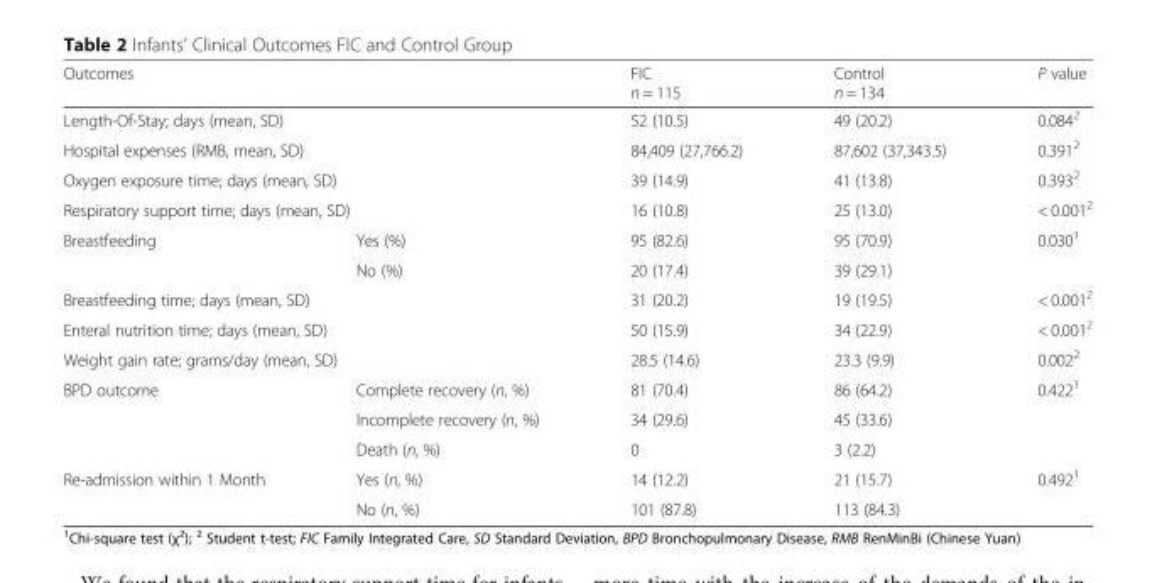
<table><thead><tr><td colspan="2">Outcomes</td><td>FIC n = 115</td><td>Control n = 134</td><td>P value</td></tr></thead><tbody><tr><td colspan="2">Length-Of-Stay; days (mean, SD)</td><td>52 (10.5)</td><td>49 (20.2)</td><td>0.084<sup>2</sup></td></tr><tr><td colspan="2">Hospital expenses (RMB, mean, SD)</td><td>84,409 (27,766.2)</td><td>87,602 (37,343.5)</td><td>0.391<sup>2</sup></td></tr><tr><td colspan="2">Oxygen exposure time; days (mean, SD)</td><td>39 (14.9)</td><td>41 (13.8)</td><td>0.393<sup>2</sup></td></tr><tr><td colspan="2">Respiratory support time; days (mean, SD)</td><td>16 (10.8)</td><td>25 (13.0)</td><td>&lt; 0.001<sup>2</sup></td></tr><tr><td rowspan="2">Breastfeeding</td><td>Yes (%)</td><td>95 (82.6)</td><td>95 (70.9)</td><td rowspan="2">0.030<sup>1</sup></td></tr><tr><td>No (%)</td><td>20 (17.4)</td><td>39 (29.1)</td></tr><tr><td colspan="2">Breastfeeding time; days (mean, SD)</td><td>31 (20.2)</td><td>19 (19.5)</td><td>&lt; 0.001<sup>2</sup></td></tr><tr><td colspan="2">Enteral nutrition time; days (mean, SD)</td><td>50 (15.9)</td><td>34 (22.9)</td><td>&lt; 0.001<sup>2</sup></td></tr><tr><td colspan="2">Weight gain rate; grams/day (mean, SD)</td><td>28.5 (14.6)</td><td>23.3 (9.9)</td><td>0.002<sup>2</sup></td></tr><tr><td rowspan="3">BPD outcome</td><td>Complete recovery (n, %)</td><td>81 (70.4)</td><td>86 (64.2)</td><td rowspan="3">0.422<sup>1</sup></td></tr><tr><td>Incomplete recovery (n, %)</td><td>34 (29.6)</td><td>45 (33.6)</td></tr><tr><td>Death (n, %)</td><td>0</td><td>3 (2.2)</td></tr><tr><td rowspan="2">Re-admission within 1 Month</td><td>Yes (n, %)</td><td>14 (12.2)</td><td>21 (15.7)</td><td rowspan="2">0.492<sup>1</sup></td></tr><tr><td>No (n, %)</td><td>101 (87.8)</td><td>113 (84.3)</td></tr></tbody></table>